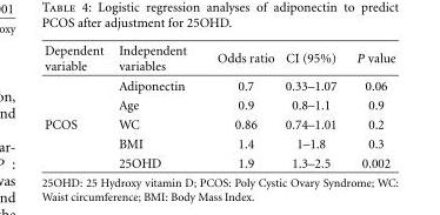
<table><thead><tr><td>Dependent variable</td><td>Independent variables</td><td>Odds ratio</td><td>CI (95%)</td><td>P value</td></tr></thead><tbody><tr><td></td><td>Adiponectin</td><td>0.7</td><td>0.33–1.07</td><td>0.06</td></tr><tr><td></td><td>Age</td><td>0.9</td><td>0.8–1.1</td><td>0.9</td></tr><tr><td rowspan="3">PCOS</td><td>WC</td><td>0.86</td><td>0.74–1.01</td><td>0.2</td></tr><tr><td>BMI</td><td>1.4</td><td>1–1.8</td><td>0.3</td></tr><tr><td>25OHD</td><td>1.9</td><td>1.3–2.5</td><td>0.002</td></tr></tbody></table>